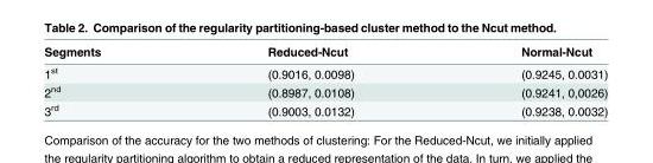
<table><thead><tr><td>Segments</td><td>Reduced-Ncut</td><td>Normal-Ncut</td></tr></thead><tbody><tr><td>1<sup>st</sup></td><td>(0.9016, 0.0098)</td><td>(0.9245, 0.0031)</td></tr><tr><td>2<sup>nd</sup></td><td>(0.8987, 0.0108)</td><td>(0.9241, 0,0026)</td></tr><tr><td>3<sup>rd</sup></td><td>(0.9003, 0.0132)</td><td>(0.9238, 0.0032)</td></tr></tbody></table>